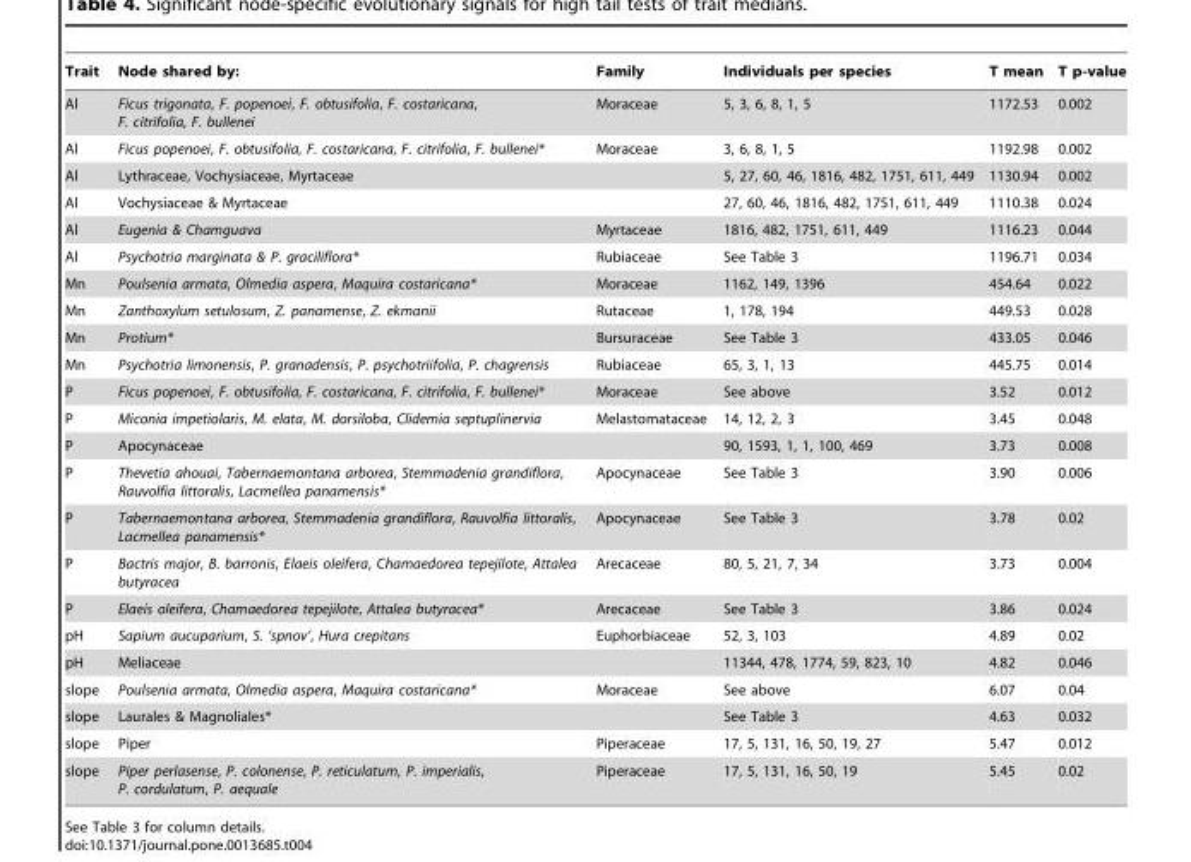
<table><thead><tr><td>Trait</td><td>Node shared by:</td><td>Family</td><td>Individuals per species</td><td>T mean</td><td>T p-value</td></tr></thead><tbody><tr><td>Al</td><td>Ficus trigonata, F. popenoei, F. obtusifolia, F. costaricana, F. citrifolia, F. bullenei</td><td>Moraceae</td><td>5, 3, 6, 8, 1, 5</td><td>1172.53</td><td>0.002</td></tr><tr><td>Al</td><td>Ficus popenoei, F. obtusifolia, F. costaricana, F. citrifolia, F. bullenei*</td><td>Moraceae</td><td>3, 6, 8, 1, 5</td><td>1192.98</td><td>0.002</td></tr><tr><td>Al</td><td>Lythraceae, Vochysiaceae, Myrtaceae</td><td></td><td>5, 27, 60, 46, 1816, 482, 1751, 611, 449</td><td>1130.94</td><td>0.002</td></tr><tr><td>Al</td><td>Vochysiaceae &amp; Myrtaceae</td><td></td><td>27, 60, 46, 1816, 482, 1751, 611, 449</td><td>1110.38</td><td>0.024</td></tr><tr><td>Al</td><td>Eugenia &amp; Chamguava</td><td>Myrtaceae</td><td>1816, 482, 1751, 611, 449</td><td>1116.23</td><td>0.044</td></tr><tr><td>Al</td><td>Psychotria marginata &amp; P. graciliflora*</td><td>Rubiaceae</td><td>See Table 3</td><td>1196.71</td><td>0.034</td></tr><tr><td>Mn</td><td>Poulsenia armata, Olmedia aspera, Maquira costaricana*</td><td>Moraceae</td><td>1162, 149, 1396</td><td>454.64</td><td>0.022</td></tr><tr><td>Mn</td><td>Zanthoxylum setulosum, Z. panamense, Z. ekmanii</td><td>Rutaceae</td><td>1, 178, 194</td><td>449.53</td><td>0.028</td></tr><tr><td>Mn</td><td>Protium*</td><td>Bursuraceae</td><td>See Table 3</td><td>433.05</td><td>0.046</td></tr><tr><td>Mn</td><td>Psychotria limonensis, P. granadensis, P. psychotriifolia, P. chagrensis</td><td>Rubiaceae</td><td>65, 3, 1, 13</td><td>445.75</td><td>0.014</td></tr><tr><td>P</td><td>Ficus popenoei, F. obtusifolia, F. costaricana, F. citrifolia, F. bullenei*</td><td>Moraceae</td><td>See above</td><td>3.52</td><td>0.012</td></tr><tr><td>P</td><td>Miconia impetiolaris, M. elata, M. dorsiloba, Clidemia septuplinervia</td><td>Melastomataceae</td><td>14, 12, 2, 3</td><td>3.45</td><td>0.048</td></tr><tr><td>P</td><td>Apocynaceae</td><td></td><td>90, 1593, 1, 1, 100, 469</td><td>3.73</td><td>0.008</td></tr><tr><td>P</td><td>Thevetia ahouai, Tabernaemontana arborea, Stemmadenia grandiflora, Rauvolfia littoralis, Lacmellea panamensis*</td><td>Apocynaceae</td><td>See Table 3</td><td>3.90</td><td>0.006</td></tr><tr><td>P</td><td>Tabernaemontana arborea, Stemmadenia grandiflora, Rauvolfia littoralis, Lacmellea panamensis*</td><td>Apocynaceae</td><td>See Table 3</td><td>3.78</td><td>0.02</td></tr><tr><td>P</td><td>Bactris major, B. barronis, Elaeis oleifera, Chamaedorea tepejilote, Attalea butyracea</td><td>Arecaceae</td><td>80, 5, 21, 7, 34</td><td>3.73</td><td>0.004</td></tr><tr><td>P</td><td>Elaeis oleifera, Chamaedorea tepejilote, Attalea butyracea*</td><td>Arecaceae</td><td>See Table 3</td><td>3.86</td><td>0.024</td></tr><tr><td>pH</td><td>Sapium aucuparium, S. ‘spnov’, Hura crepitans</td><td>Euphorbiaceae</td><td>52, 3, 103</td><td>4.89</td><td>0.02</td></tr><tr><td>pH</td><td>Meliaceae</td><td></td><td>11344, 478, 1774, 59, 823, 10</td><td>4.82</td><td>0.046</td></tr><tr><td>slope</td><td>Poulsenia armata, Olmedia aspera, Maquira costaricana*</td><td>Moraceae</td><td>See above</td><td>6.07</td><td>0.04</td></tr><tr><td>slope</td><td>Laurales &amp; Magnoliales*</td><td></td><td>See Table 3</td><td>4.63</td><td>0.032</td></tr><tr><td>slope</td><td>Piper</td><td>Piperaceae</td><td>17, 5, 131, 16, 50, 19, 27</td><td>5.47</td><td>0.012</td></tr><tr><td>slope</td><td>Piper perlasense, P. colonense, P. reticulatum, P. imperialis, P. cordulatum, P. aequale</td><td>Piperaceae</td><td>17, 5, 131, 16, 50, 19</td><td>5.45</td><td>0.02</td></tr></tbody></table>